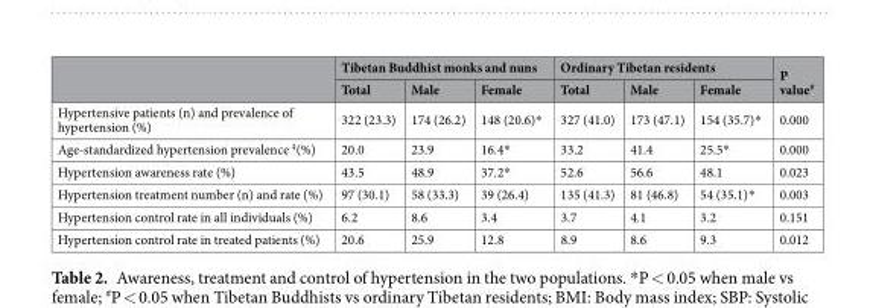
<table><thead><tr><td rowspan="2"></td><td colspan="3">Tibetan Buddhist monks and nuns</td><td colspan="3">Ordinary Tibetan residents</td><td rowspan="2">P value<sup>#</sup></td></tr><tr><td>Total</td><td>Male</td><td>Female</td><td>Total</td><td>Male</td><td>Female</td></tr></thead><tbody><tr><td>Hypertensive patients (n) and prevalence of hypertension (%)</td><td>322 (23.3)</td><td>174 (26.2)</td><td>148 (20.6)*</td><td>327 (41.0)</td><td>173 (47.1)</td><td>154 (35.7)*</td><td>0.000</td></tr><tr><td>Age-standardized hypertension prevalence <sup>‡</sup>(%)</td><td>20.0</td><td>23.9</td><td>16.4*</td><td>33.2</td><td>41.4</td><td>25.5*</td><td>0.000</td></tr><tr><td>Hypertension awareness rate (%)</td><td>43.5</td><td>48.9</td><td>37.2*</td><td>52.6</td><td>56.6</td><td>48.1</td><td>0.023</td></tr><tr><td>Hypertension treatment number (n) and rate (%)</td><td>97 (30.1)</td><td>58 (33.3)</td><td>39 (26.4)</td><td>135 (41.3)</td><td>81 (46.8)</td><td>54 (35.1)*</td><td>0.003</td></tr><tr><td>Hypertension control rate in all individuals (%)</td><td>6.2</td><td>8.6</td><td>3.4</td><td>3.7</td><td>4.1</td><td>3.2</td><td>0.151</td></tr><tr><td>Hypertension control rate in treated patients (%)</td><td>20.6</td><td>25.9</td><td>12.8</td><td>8.9</td><td>8.6</td><td>9.3</td><td>0.012</td></tr></tbody></table>